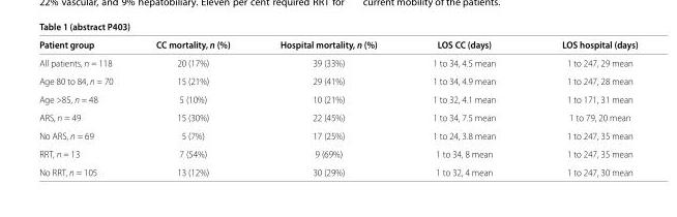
<table><thead><tr><td>Patient group</td><td>CC mortality, n (%)</td><td>Hospital mortality, n (%)</td><td>LOS CC (days)</td><td>LOS hospital (days)</td></tr></thead><tbody><tr><td>All patients, n = 118</td><td>20 (17%)</td><td>39 (33%)</td><td>1 to 34, 4.5 mean</td><td>1 to 247, 29 mean</td></tr><tr><td>Age 80 to 84, n = 70</td><td>15 (21%)</td><td>29 (41%)</td><td>1 to 34, 4.9 mean</td><td>1 to 247, 28 mean</td></tr><tr><td>Age &gt;85, n = 48</td><td>5 (10%)</td><td>10 (21%)</td><td>1 to 32, 4.1 mean</td><td>1 to 171, 31 mean</td></tr><tr><td>ARS, n = 49</td><td>15 (30%)</td><td>22 (45%)</td><td>1 to 34, 7.5 mean</td><td>1 to 79, 20 mean</td></tr><tr><td>No ARS, n = 69</td><td>5 (7%)</td><td>17 (25%)</td><td>1 to 24, 3.8 mean</td><td>1 to 247, 35 mean</td></tr><tr><td>RRT, n = 13</td><td>7 (54%)</td><td>9 (69%)</td><td>1 to 34, 8 mean</td><td>1 to 247, 35 mean</td></tr><tr><td>No RRT, n = 105</td><td>13 (12%)</td><td>30 (29%)</td><td>1 to 32, 4 mean</td><td>1 to 247, 30 mean</td></tr></tbody></table>